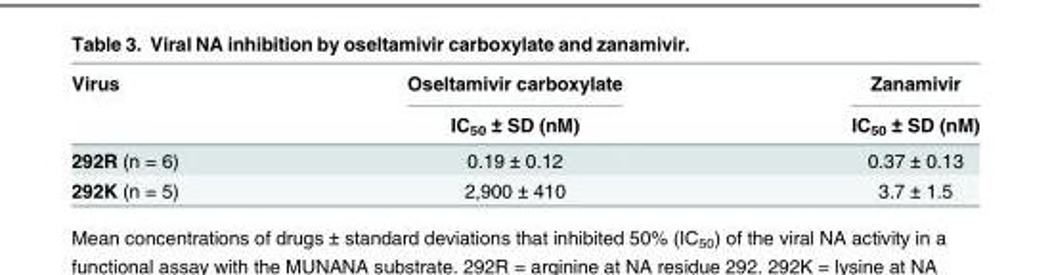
<table><thead><tr><td rowspan="2">Virus</td><td rowspan="2">Oseltamivir carboxylate IC<sub>50</sub> ± SD (nM)</td><td rowspan="2">Zanamivir IC<sub>50</sub> ± SD (nM)</td></tr><tr></tr></thead><tbody><tr><td>292R (n = 6)</td><td>0.19 ± 0.12</td><td>0.37 ± 0.13</td></tr><tr><td>292K (n = 5)</td><td>2,900 ± 410</td><td>3.7 ± 1.5</td></tr></tbody></table>